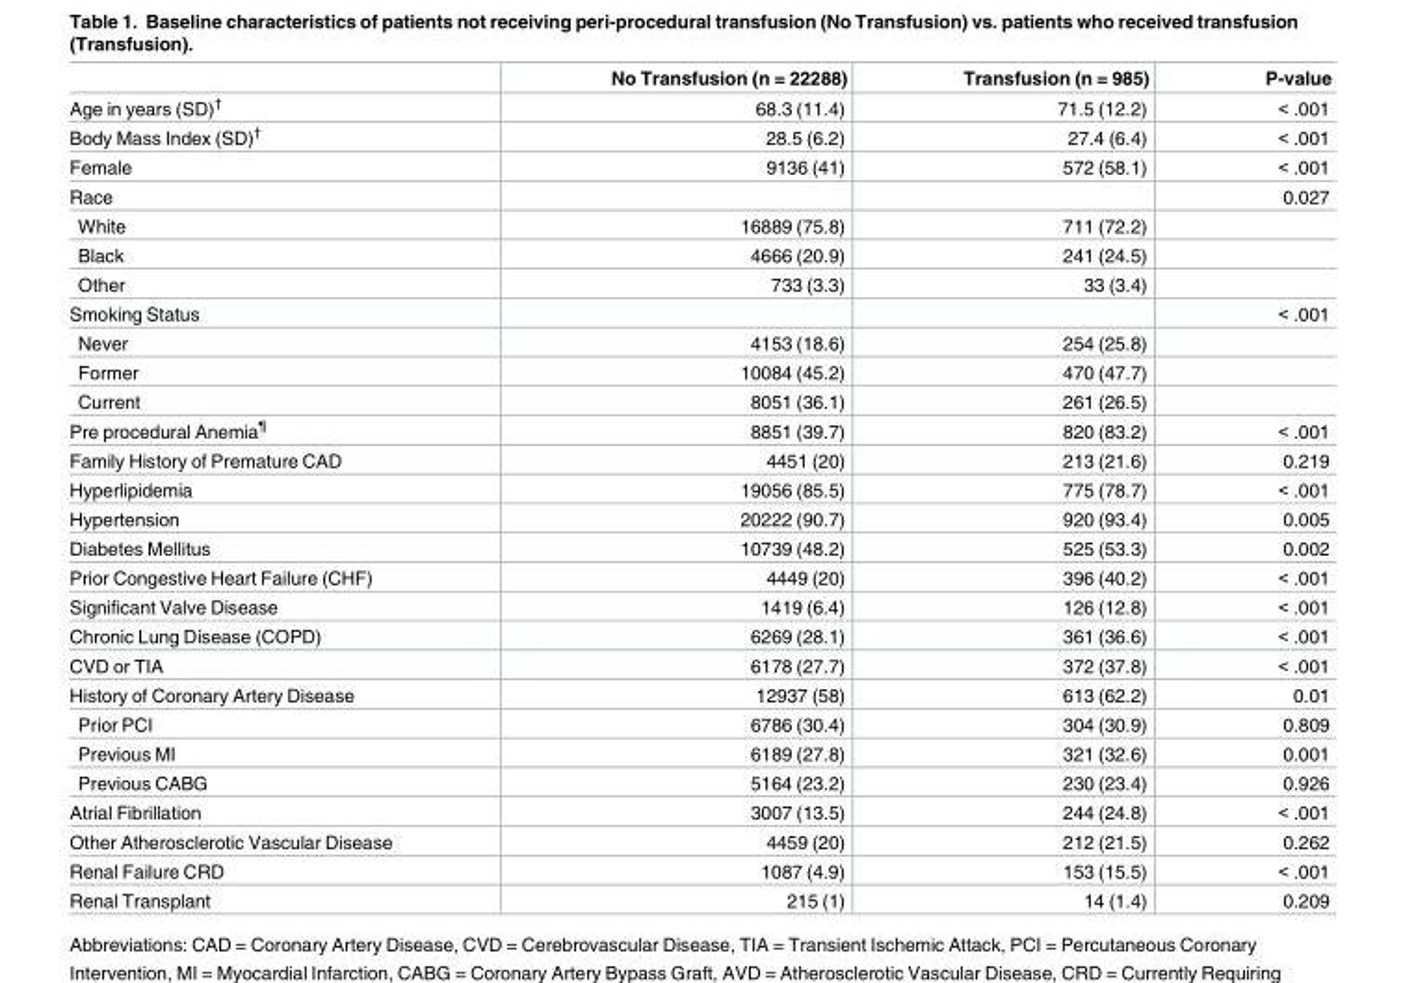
<table><thead><tr><td></td><td>No Transfusion (n = 22288)</td><td>Transfusion (n = 985)</td><td>P-value</td></tr></thead><tbody><tr><td>Age in years (SD)<sup>†</sup></td><td>68.3 (11.4)</td><td>71.5 (12.2)</td><td>&lt; .001</td></tr><tr><td>Body Mass Index (SD)<sup>†</sup></td><td>28.5 (6.2)</td><td>27.4 (6.4)</td><td>&lt; .001</td></tr><tr><td>Female</td><td>9136 (41)</td><td>572 (58.1)</td><td>&lt; .001</td></tr><tr><td>Race</td><td></td><td></td><td>0.027</td></tr><tr><td>White</td><td>16889 (75.8)</td><td>711 (72.2)</td><td></td></tr><tr><td>Black</td><td>4666 (20.9)</td><td>241 (24.5)</td><td></td></tr><tr><td>Other</td><td>733 (3.3)</td><td>33 (3.4)</td><td></td></tr><tr><td>Smoking Status</td><td></td><td></td><td>&lt; .001</td></tr><tr><td>Never</td><td>4153 (18.6)</td><td>254 (25.8)</td><td></td></tr><tr><td>Former</td><td>10084 (45.2)</td><td>470 (47.7)</td><td></td></tr><tr><td>Current</td><td>8051 (36.1)</td><td>261 (26.5)</td><td></td></tr><tr><td>Pre procedural Anemia<sup>¶</sup></td><td>8851 (39.7)</td><td>820 (83.2)</td><td>&lt; .001</td></tr><tr><td>Family History of Premature CAD</td><td>4451 (20)</td><td>213 (21.6)</td><td>0.219</td></tr><tr><td>Hyperlipidemia</td><td>19056 (85.5)</td><td>775 (78.7)</td><td>&lt; .001</td></tr><tr><td>Hypertension</td><td>20222 (90.7)</td><td>920 (93.4)</td><td>0.005</td></tr><tr><td>Diabetes Mellitus</td><td>10739 (48.2)</td><td>525 (53.3)</td><td>0.002</td></tr><tr><td>Prior Congestive Heart Failure (CHF)</td><td>4449 (20)</td><td>396 (40.2)</td><td>&lt; .001</td></tr><tr><td>Significant Valve Disease</td><td>1419 (6.4)</td><td>126 (12.8)</td><td>&lt; .001</td></tr><tr><td>Chronic Lung Disease (COPD)</td><td>6269 (28.1)</td><td>361 (36.6)</td><td>&lt; .001</td></tr><tr><td>CVD or TIA</td><td>6178 (27.7)</td><td>372 (37.8)</td><td>&lt; .001</td></tr><tr><td>History of Coronary Artery Disease</td><td>12937 (58)</td><td>613 (62.2)</td><td>0.01</td></tr><tr><td>Prior PCI</td><td>6786 (30.4)</td><td>304 (30.9)</td><td>0.809</td></tr><tr><td>Previous MI</td><td>6189 (27.8)</td><td>321 (32.6)</td><td>0.001</td></tr><tr><td>Previous CABG</td><td>5164 (23.2)</td><td>230 (23.4)</td><td>0.926</td></tr><tr><td>Atrial Fibrillation</td><td>3007 (13.5)</td><td>244 (24.8)</td><td>&lt; .001</td></tr><tr><td>Other Atherosclerotic Vascular Disease</td><td>4459 (20)</td><td>212 (21.5)</td><td>0.262</td></tr><tr><td>Renal Failure CRD</td><td>1087 (4.9)</td><td>153 (15.5)</td><td>&lt; .001</td></tr><tr><td>Renal Transplant</td><td>215 (1)</td><td>14 (1.4)</td><td>0.209</td></tr></tbody></table>